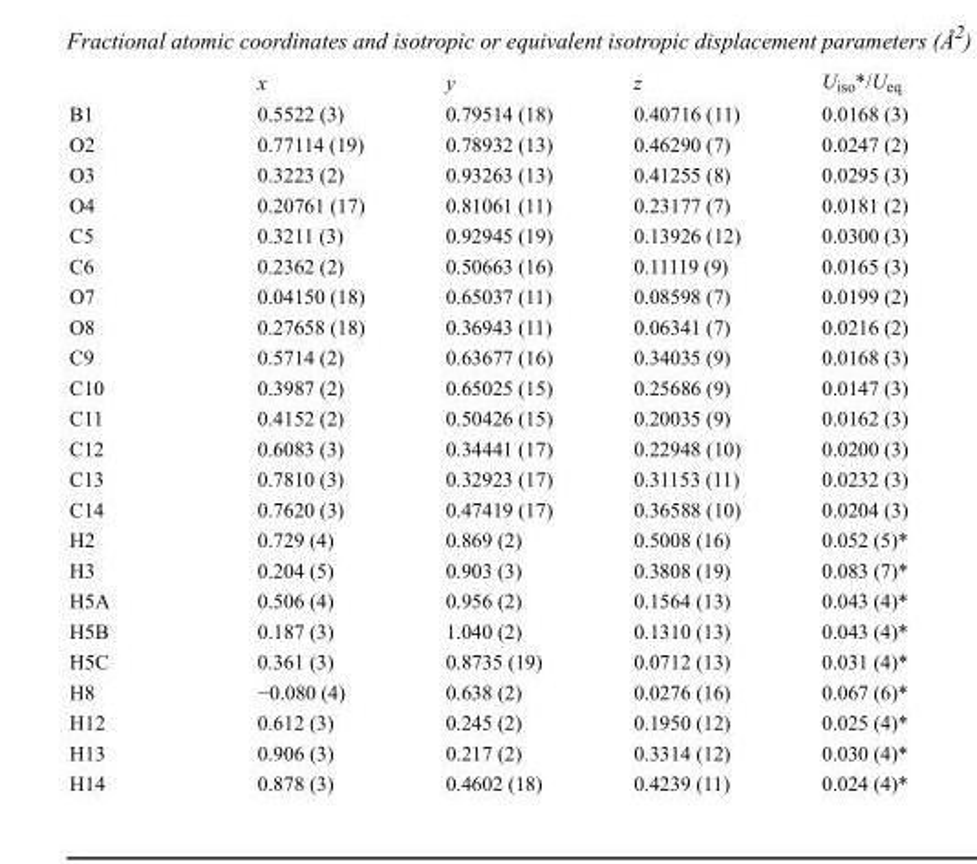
<table><thead><tr><td></td><td>x</td><td>y</td><td>z</td><td>U<sub>iso</sub>*/U<sub>eq</sub></td></tr></thead><tbody><tr><td>B1</td><td>0.5522 (3)</td><td>0.79514 (18)</td><td>0.40716 (11)</td><td>0.0168 (3)</td></tr><tr><td>O2</td><td>0.77114 (19)</td><td>0.78932 (13)</td><td>0.46290 (7)</td><td>0.0247 (2)</td></tr><tr><td>O3</td><td>0.3223 (2)</td><td>0.93263 (13)</td><td>0.41255 (8)</td><td>0.0295 (3)</td></tr><tr><td>O4</td><td>0.20761 (17)</td><td>0.81061 (11)</td><td>0.23177 (7)</td><td>0.0181 (2)</td></tr><tr><td>C5</td><td>0.3211 (3)</td><td>0.92945 (19)</td><td>0.13926 (12)</td><td>0.0300 (3)</td></tr><tr><td>C6</td><td>0.2362 (2)</td><td>0.50663 (16)</td><td>0.11119 (9)</td><td>0.0165 (3)</td></tr><tr><td>O7</td><td>0.04150 (18)</td><td>0.65037 (11)</td><td>0.08598 (7)</td><td>0.0199 (2)</td></tr><tr><td>O8</td><td>0.27658 (18)</td><td>0.36943 (11)</td><td>0.06341 (7)</td><td>0.0216 (2)</td></tr><tr><td>C9</td><td>0.5714 (2)</td><td>0.63677 (16)</td><td>0.34035 (9)</td><td>0.0168 (3)</td></tr><tr><td>C10</td><td>0.3987 (2)</td><td>0.65025 (15)</td><td>0.25686 (9)</td><td>0.0147 (3)</td></tr><tr><td>C11</td><td>0.4152 (2)</td><td>0.50426 (15)</td><td>0.20035 (9)</td><td>0.0162 (3)</td></tr><tr><td>C12</td><td>0.6083 (3)</td><td>0.34441 (17)</td><td>0.22948 (10)</td><td>0.0200 (3)</td></tr><tr><td>C13</td><td>0.7810 (3)</td><td>0.32923 (17)</td><td>0.31153 (11)</td><td>0.0232 (3)</td></tr><tr><td>C14</td><td>0.7620 (3)</td><td>0.47419 (17)</td><td>0.36588 (10)</td><td>0.0204 (3)</td></tr><tr><td>H2</td><td>0.729 (4)</td><td>0.869 (2)</td><td>0.5008 (16)</td><td>0.052 (5)*</td></tr><tr><td>H3</td><td>0.204 (5)</td><td>0.903 (3)</td><td>0.3808 (19)</td><td>0.083 (7)*</td></tr><tr><td>H5A</td><td>0.506 (4)</td><td>0.956 (2)</td><td>0.1564 (13)</td><td>0.043 (4)*</td></tr><tr><td>H5B</td><td>0.187 (3)</td><td>1.040 (2)</td><td>0.1310 (13)</td><td>0.043 (4)*</td></tr><tr><td>H5C</td><td>0.361 (3)</td><td>0.8735 (19)</td><td>0.0712 (13)</td><td>0.031 (4)*</td></tr><tr><td>H8</td><td>−0.080 (4)</td><td>0.638 (2)</td><td>0.0276 (16)</td><td>0.067 (6)*</td></tr><tr><td>H12</td><td>0.612 (3)</td><td>0.245 (2)</td><td>0.1950 (12)</td><td>0.025 (4)*</td></tr><tr><td>H13</td><td>0.906 (3)</td><td>0.217 (2)</td><td>0.3314 (12)</td><td>0.030 (4)*</td></tr><tr><td>H14</td><td>0.878 (3)</td><td>0.4602 (18)</td><td>0.4239 (11)</td><td>0.024 (4)*</td></tr></tbody></table>